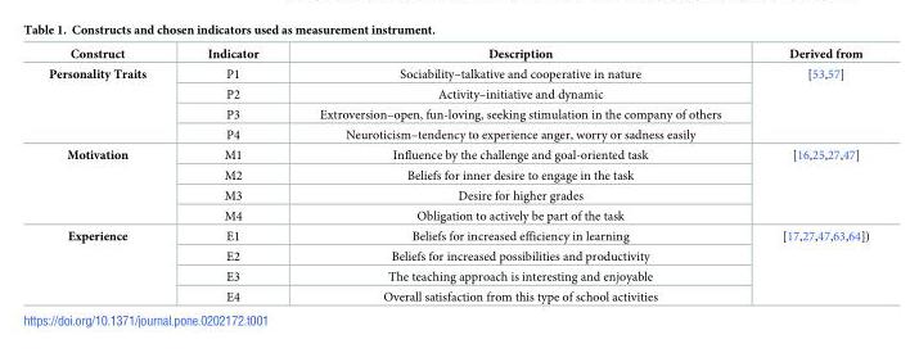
<table><thead><tr><td>Construct</td><td>Indicator</td><td>Description</td><td>Derived from</td></tr></thead><tbody><tr><td rowspan="4">Personality Traits</td><td>P1</td><td>Sociability–talkative and cooperative in nature</td><td rowspan="4">[53,57]</td></tr><tr><td>P2</td><td>Activity–initiative and dynamic</td></tr><tr><td>P3</td><td>Extroversion–open, fun-loving, seeking stimulation in the company of others</td></tr><tr><td>P4</td><td>Neuroticism–tendency to experience anger, worry or sadness easily</td></tr><tr><td rowspan="4">Motivation</td><td>M1</td><td>Influence by the challenge and goal-oriented task</td><td rowspan="4">[16,25,27,47]</td></tr><tr><td>M2</td><td>Beliefs for inner desire to engage in the task</td></tr><tr><td>M3</td><td>Desire for higher grades</td></tr><tr><td>M4</td><td>Obligation to actively be part of the task</td></tr><tr><td rowspan="4">Experience</td><td>E1</td><td>Beliefs for increased efficiency in learning</td><td rowspan="4">[17,27,47,63,64])</td></tr><tr><td>E2</td><td>Beliefs for increased possibilities and productivity</td></tr><tr><td>E3</td><td>The teaching approach is interesting and enjoyable</td></tr><tr><td>E4</td><td>Overall satisfaction from this type of school activities</td></tr></tbody></table>